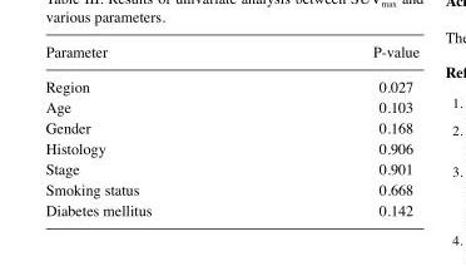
<table><thead><tr><td>Parameter</td><td>P-value</td></tr></thead><tbody><tr><td>Region</td><td>0.027</td></tr><tr><td>Age</td><td>0.103</td></tr><tr><td>Gender</td><td>0.168</td></tr><tr><td>Histology</td><td>0.906</td></tr><tr><td>Stage</td><td>0.901</td></tr><tr><td>Smoking status</td><td>0.668</td></tr><tr><td>Diabetes mellitus</td><td>0.142</td></tr></tbody></table>